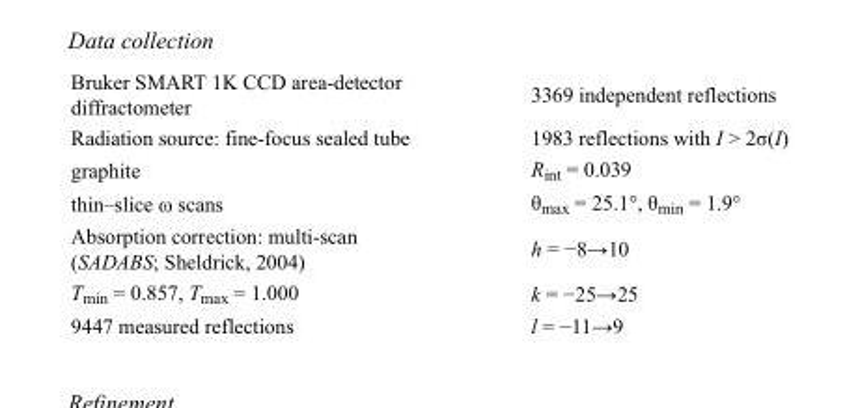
<table><tbody><tr><td>Bruker SMART 1K CCD area-detector diffractometer</td><td>3369 independent reflections</td></tr><tr><td>Radiation source: fine-focus sealed tube</td><td>1983 reflections with I &gt; 2σ(I)</td></tr><tr><td>graphite</td><td>R<sub>int</sub> = 0.039</td></tr><tr><td>thin–slice ω scans</td><td>θ<sub>max</sub> = 25.1°, θ<sub>min</sub> = 1.9°</td></tr><tr><td>Absorption correction: multi-scan (SADABS; Sheldrick, 2004)</td><td>h = −8→10</td></tr><tr><td>T<sub>min</sub> = 0.857, T<sub>max</sub> = 1.000</td><td>k = −25→25</td></tr><tr><td>9447 measured reflections</td><td>l = −11→9</td></tr></tbody></table>